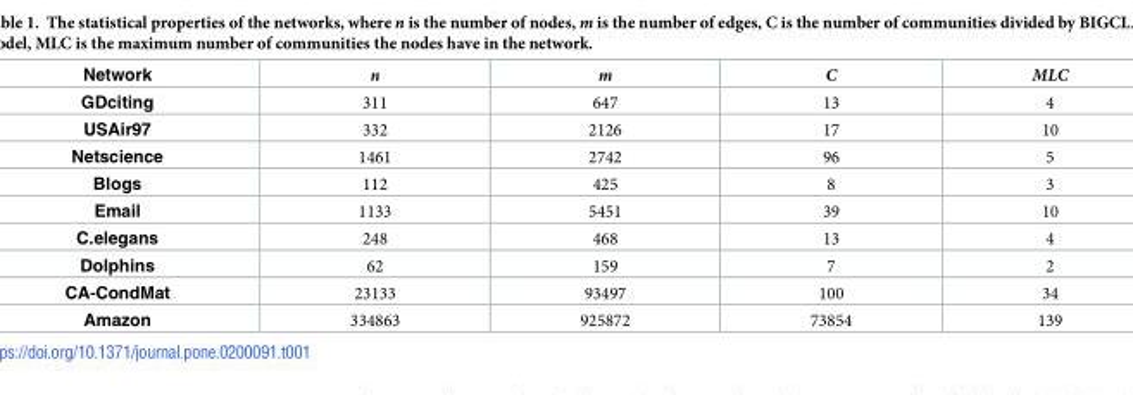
<table><thead><tr><td>Network</td><td>n</td><td>m</td><td>C</td><td>MLC</td></tr></thead><tbody><tr><td>GDciting</td><td>311</td><td>647</td><td>13</td><td>4</td></tr><tr><td>USAir97</td><td>332</td><td>2126</td><td>17</td><td>10</td></tr><tr><td>Netscience</td><td>1461</td><td>2742</td><td>96</td><td>5</td></tr><tr><td>Blogs</td><td>112</td><td>425</td><td>8</td><td>3</td></tr><tr><td>Email</td><td>1133</td><td>5451</td><td>39</td><td>10</td></tr><tr><td>C.elegans</td><td>248</td><td>468</td><td>13</td><td>4</td></tr><tr><td>Dolphins</td><td>62</td><td>159</td><td>7</td><td>2</td></tr><tr><td>CA-CondMat</td><td>23133</td><td>93497</td><td>100</td><td>34</td></tr><tr><td>Amazon</td><td>334863</td><td>925872</td><td>73854</td><td>139</td></tr></tbody></table>